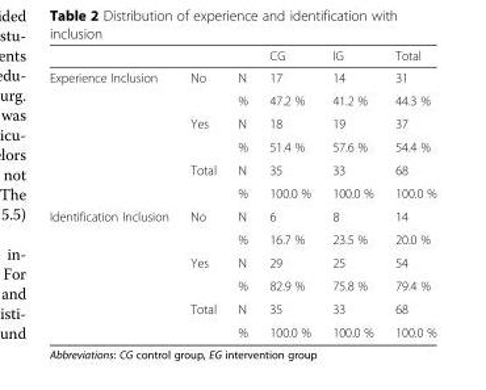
<table><thead><tr><td></td><td></td><td></td><td>CG</td><td>IG</td><td>Total</td></tr></thead><tbody><tr><td rowspan="6">Experience Inclusion</td><td rowspan="2">No</td><td>N</td><td>17</td><td>14</td><td>31</td></tr><tr><td>%</td><td>47.2 %</td><td>41.2 %</td><td>44.3 %</td></tr><tr><td rowspan="2">Yes</td><td>N</td><td>18</td><td>19</td><td>37</td></tr><tr><td>%</td><td>51.4 %</td><td>57.6 %</td><td>54.4 %</td></tr><tr><td rowspan="2">Total</td><td>N</td><td>35</td><td>33</td><td>68</td></tr><tr><td>%</td><td>100.0 %</td><td>100.0 %</td><td>100.0 %</td></tr><tr><td rowspan="6">Identification Inclusion</td><td rowspan="2">No</td><td>N</td><td>6</td><td>8</td><td>14</td></tr><tr><td>%</td><td>16.7 %</td><td>23.5 %</td><td>20.0 %</td></tr><tr><td rowspan="2">Yes</td><td>N</td><td>29</td><td>25</td><td>54</td></tr><tr><td>%</td><td>82.9 %</td><td>75.8 %</td><td>79.4 %</td></tr><tr><td rowspan="2">Total</td><td>N</td><td>35</td><td>33</td><td>68</td></tr><tr><td>%</td><td>100.0 %</td><td>100.0 %</td><td>100.0 %</td></tr></tbody></table>